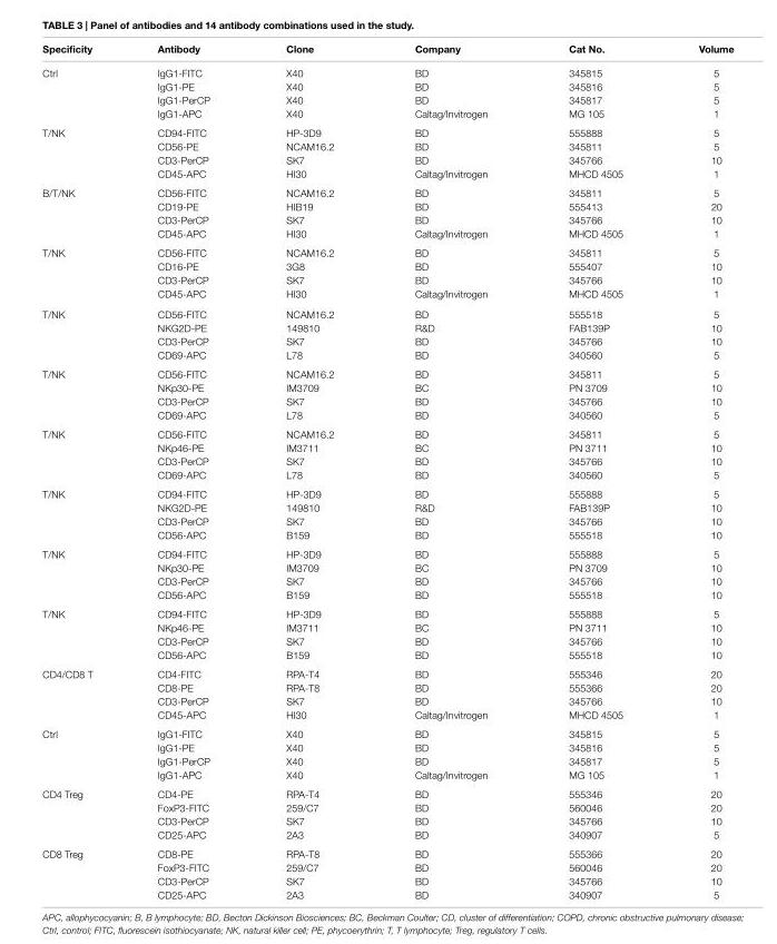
<table><thead><tr><td>specificity</td><td>antibody</td><td>clone</td><td>company</td><td>cat no.</td><td>Volume</td></tr></thead><tbody><tr><td rowspan="4">Ctrl</td><td>IgG1-FITC</td><td>X40</td><td>BD</td><td>345815</td><td>5</td></tr><tr><td>IgG1-PE</td><td>X40</td><td>BD</td><td>345816</td><td>5</td></tr><tr><td>IgG1-PerCP</td><td>X40</td><td>BD</td><td>345817</td><td>5</td></tr><tr><td>IgG1-APC</td><td>X40</td><td>Caltag/Invitrogen</td><td>MG 105</td><td>1</td></tr><tr><td rowspan="4">T/NK</td><td>CD94-FITC</td><td>HP-3D9</td><td>BD</td><td>555888</td><td>5</td></tr><tr><td>CD56-PE</td><td>NCAM16.2</td><td>BD</td><td>345811</td><td>5</td></tr><tr><td>CD3-PerCP</td><td>SK7</td><td>BD</td><td>345766</td><td>10</td></tr><tr><td>CD45-APC</td><td>HI30</td><td>Caltag/Invitrogen</td><td>MHCD 4505</td><td>1</td></tr><tr><td rowspan="4">B/T/NK</td><td>CD56-FITC</td><td>NCAM16.2</td><td>BD</td><td>345811</td><td>5</td></tr><tr><td>CD19-PE</td><td>HIB19</td><td>BD</td><td>555413</td><td>20</td></tr><tr><td>CD3-PerCP</td><td>SK7</td><td>BD</td><td>345766</td><td>10</td></tr><tr><td>CD45-APC</td><td>HI30</td><td>Caltag/Invitrogen</td><td>MHCD 4505</td><td>1</td></tr><tr><td rowspan="4">T/NK</td><td>CD56-FITC</td><td>NCAM16.2</td><td>BD</td><td>345811</td><td>5</td></tr><tr><td>CD16-PE</td><td>3G8</td><td>BD</td><td>555407</td><td>10</td></tr><tr><td>CD3-PerCP</td><td>SK7</td><td>BD</td><td>345766</td><td>10</td></tr><tr><td>CD45-APC</td><td>HI30</td><td>Caltag/Invitrogen</td><td>MHCD 4505</td><td>1</td></tr><tr><td rowspan="4">T/NK</td><td>CD56-FITC</td><td>NCAM16.2</td><td>BD</td><td>555518</td><td>5</td></tr><tr><td>NKG2D-PE</td><td>149810</td><td>R&amp;D</td><td>FAB139P</td><td>10</td></tr><tr><td>CD3-PerCP</td><td>SK7</td><td>BD</td><td>345766</td><td>10</td></tr><tr><td>CD69-APC</td><td>L78</td><td>BD</td><td>340560</td><td>5</td></tr><tr><td rowspan="4">T/NK</td><td>CD56-FITC</td><td>NCAM16.2</td><td>BD</td><td>345811</td><td>5</td></tr><tr><td>NKp30-PE</td><td>IM3709</td><td>BC</td><td>PN 3709</td><td>10</td></tr><tr><td>CD3-PerCP</td><td>SK7</td><td>BD</td><td>345766</td><td>10</td></tr><tr><td>CD69-APC</td><td>L78</td><td>BD</td><td>340560</td><td>5</td></tr><tr><td rowspan="4">T/NK</td><td>CD56-FITC</td><td>NCAM16.2</td><td>BD</td><td>345811</td><td>5</td></tr><tr><td>NKp46-PE</td><td>IM3711</td><td>BC</td><td>PN 3711</td><td>10</td></tr><tr><td>CD3-PerCP</td><td>SK7</td><td>BD</td><td>345766</td><td>10</td></tr><tr><td>CD69-APC</td><td>L78</td><td>BD</td><td>340560</td><td>5</td></tr><tr><td rowspan="4">T/NK</td><td>CD94-FITC</td><td>HP-3D9</td><td>BD</td><td>555888</td><td>5</td></tr><tr><td>NKG2D-PE</td><td>149810</td><td>R&amp;D</td><td>FAB139P</td><td>10</td></tr><tr><td>CD3-PerCP</td><td>SK7</td><td>BD</td><td>345766</td><td>10</td></tr><tr><td>CD56-APC</td><td>B159</td><td>BD</td><td>555518</td><td>10</td></tr><tr><td rowspan="4">T/NK</td><td>CD94-FITC</td><td>HP-3D9</td><td>BD</td><td>555888</td><td>5</td></tr><tr><td>NKp30-PE</td><td>IM3709</td><td>BC</td><td>PN 3709</td><td>10</td></tr><tr><td>CD3-PerCP</td><td>SK7</td><td>BD</td><td>345766</td><td>10</td></tr><tr><td>CD56-APC</td><td>B159</td><td>BD</td><td>555518</td><td>10</td></tr><tr><td rowspan="4">T/NK</td><td>CD94-FITC</td><td>HP-3D9</td><td>BD</td><td>555888</td><td>5</td></tr><tr><td>NKp46-PE</td><td>IM3711</td><td>BC</td><td>PN 3711</td><td>10</td></tr><tr><td>CD3-PerCP</td><td>SK7</td><td>BD</td><td>345766</td><td>10</td></tr><tr><td>CD56-APC</td><td>B159</td><td>BD</td><td>555518</td><td>10</td></tr><tr><td rowspan="4">CD4/CD8 T</td><td>CD4-FITC</td><td>RPA-T4</td><td>BD</td><td>555346</td><td>20</td></tr><tr><td>CD8-PE</td><td>RPA-T8</td><td>BD</td><td>555366</td><td>20</td></tr><tr><td>CD3-PerCP</td><td>SK7</td><td>BD</td><td>345766</td><td>10</td></tr><tr><td>CD45-APC</td><td>HI30</td><td>Caltag/Invitrogen</td><td>MHCD 4505</td><td>1</td></tr><tr><td rowspan="4">Ctrl</td><td>IgG1-FITC</td><td>X40</td><td>BD</td><td>345815</td><td>5</td></tr><tr><td>IgG1-PE</td><td>X40</td><td>BD</td><td>345816</td><td>5</td></tr><tr><td>IgG1-PerCP</td><td>X40</td><td>BD</td><td>345817</td><td>5</td></tr><tr><td>IgG1-APC</td><td>X40</td><td>Caltag/Invitrogen</td><td>MG 105</td><td>1</td></tr><tr><td rowspan="4">CD4 Treg</td><td>CD4-PE</td><td>RPA-T4</td><td>BD</td><td>555346</td><td>20</td></tr><tr><td>FoxP3-FITC</td><td>259/C7</td><td>BD</td><td>560046</td><td>20</td></tr><tr><td>CD3-PerCP</td><td>SK7</td><td>BD</td><td>345766</td><td>10</td></tr><tr><td>CD25-APC</td><td>2A3</td><td>BD</td><td>340907</td><td>5</td></tr><tr><td rowspan="4">CD8 Treg</td><td>CD8-PE</td><td>RPA-T8</td><td>BD</td><td>555366</td><td>20</td></tr><tr><td>FoxP3-FITC</td><td>259/C7</td><td>BD</td><td>560046</td><td>20</td></tr><tr><td>CD3-PerCP</td><td>SK7</td><td>BD</td><td>345766</td><td>10</td></tr><tr><td>CD25-APC</td><td>2A3</td><td>BD</td><td>340907</td><td>5</td></tr></tbody></table>